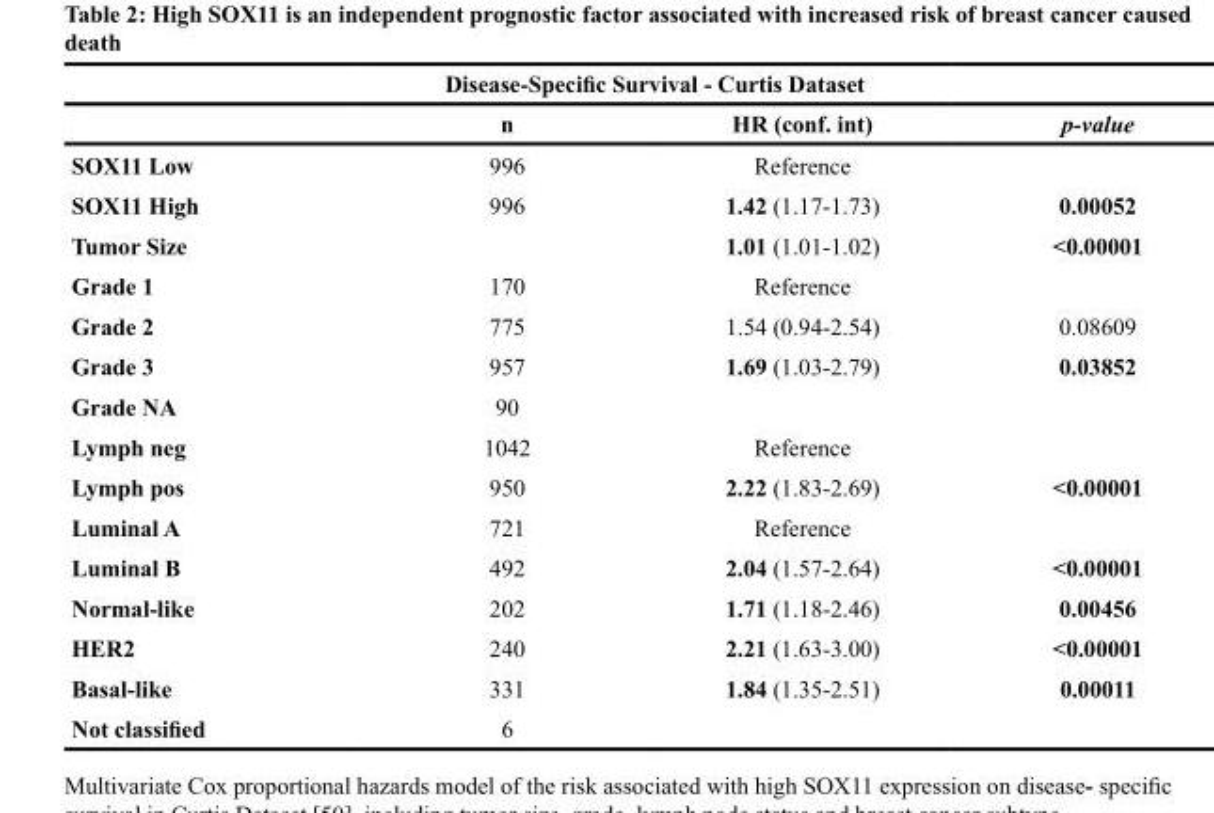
<table><thead><tr><td rowspan="2"></td><td colspan="2">Disease-Specific Survival - Curtis Dataset</td><td rowspan="2">p-value</td></tr><tr><td>n</td><td>HR (conf. int)</td></tr></thead><tbody><tr><td>SOX11 Low</td><td>996</td><td>Reference</td><td></td></tr><tr><td>SOX11 High</td><td>996</td><td>1.42 (1.17-1.73)</td><td>0.00052</td></tr><tr><td>Tumor Size</td><td></td><td>1.01 (1.01-1.02)</td><td>&lt;0.00001</td></tr><tr><td>Grade 1</td><td>170</td><td>Reference</td><td></td></tr><tr><td>Grade 2</td><td>775</td><td>1.54 (0.94-2.54)</td><td>0.08609</td></tr><tr><td>Grade 3</td><td>957</td><td>1.69 (1.03-2.79)</td><td>0.03852</td></tr><tr><td>Grade NA</td><td>90</td><td></td><td></td></tr><tr><td>Lymph neg</td><td>1042</td><td>Reference</td><td></td></tr><tr><td>Lymph pos</td><td>950</td><td>2.22 (1.83-2.69)</td><td>&lt;0.00001</td></tr><tr><td>Luminal A</td><td>721</td><td>Reference</td><td></td></tr><tr><td>Luminal B</td><td>492</td><td>2.04 (1.57-2.64)</td><td>&lt;0.00001</td></tr><tr><td>Normal-like</td><td>202</td><td>1.71 (1.18-2.46)</td><td>0.00456</td></tr><tr><td>HER2</td><td>240</td><td>2.21 (1.63-3.00)</td><td>&lt;0.00001</td></tr><tr><td>Basal-like</td><td>331</td><td>1.84 (1.35-2.51)</td><td>0.00011</td></tr><tr><td>Not classified</td><td>6</td><td></td><td></td></tr></tbody></table>